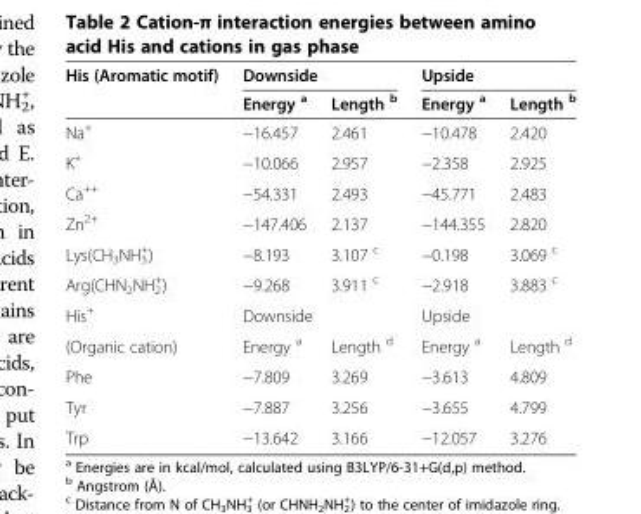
<table><thead><tr><td rowspan="2">His (Aromatic motif)</td><td colspan="2">Downside</td><td colspan="2">Upside</td></tr><tr><td>Energy <sup>a</sup></td><td>Length <sup>b</sup></td><td>Energy <sup>a</sup></td><td>Length <sup>b</sup></td></tr></thead><tbody><tr><td>Na<sup>+</sup></td><td>−16.457</td><td>2.461</td><td>−10.478</td><td>2.420</td></tr><tr><td>K<sup>+</sup></td><td>−10.066</td><td>2.957</td><td>−2.358</td><td>2.925</td></tr><tr><td>Ca<sup>++</sup></td><td>−54.331</td><td>2.493</td><td>−45.771</td><td>2.483</td></tr><tr><td>Zn<sup>2+</sup></td><td>−147.406</td><td>2.137</td><td>−144.355</td><td>2.820</td></tr><tr><td>Lys(CH<sub>3</sub>NH<sub>3</sub> <sup>+</sup>)</td><td>−8.193</td><td>3.107 <sup>c</sup></td><td>−0.198</td><td>3.069 <sup>c</sup></td></tr><tr><td>Arg(CHN<sub>2</sub>NH<sub>2</sub> <sup>+</sup>)</td><td>−9.268</td><td>3.911 <sup>c</sup></td><td>−2.918</td><td>3.883 <sup>c</sup></td></tr><tr><td>His<sup>+</sup></td><td>Downside</td><td></td><td>Upside</td><td></td></tr><tr><td>(Organic cation)</td><td>Energy <sup>a</sup></td><td>Length <sup>d</sup></td><td>Energy <sup>a</sup></td><td>Length <sup>d</sup></td></tr><tr><td>Phe</td><td>−7.809</td><td>3.269</td><td>−3.613</td><td>4.809</td></tr><tr><td>Tyr</td><td>−7.887</td><td>3.256</td><td>−3.655</td><td>4.799</td></tr><tr><td>Trp</td><td>−13.642</td><td>3.166</td><td>−12.057</td><td>3.276</td></tr></tbody></table>